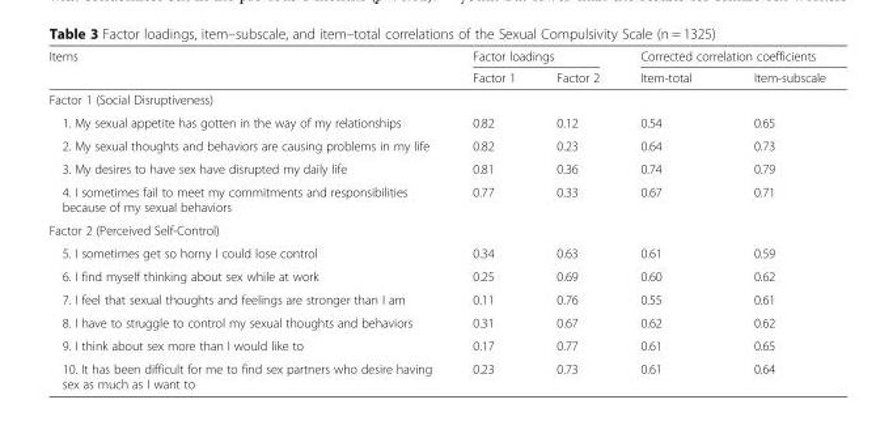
<table><thead><tr><td rowspan="2">Items</td><td colspan="2">Factor loadings</td><td colspan="2">Corrected correlation coefficients</td></tr><tr><td>Factor 1</td><td>Factor 2</td><td>Item-total</td><td>Item-subscale</td></tr></thead><tbody><tr><td colspan="5">Factor 1 (Social Disruptiveness)</td></tr><tr><td>1. My sexual appetite has gotten in the way of my relationships</td><td>0.82</td><td>0.12</td><td>0.54</td><td>0.65</td></tr><tr><td>2. My sexual thoughts and behaviors are causing problems in my life</td><td>0.82</td><td>0.23</td><td>0.64</td><td>0.73</td></tr><tr><td>3. My desires to have sex have disrupted my daily life</td><td>0.81</td><td>0.36</td><td>0.74</td><td>0.79</td></tr><tr><td>4. I sometimes fail to meet my commitments and responsibilities because of my sexual behaviors</td><td>0.77</td><td>0.33</td><td>0.67</td><td>0.71</td></tr><tr><td colspan="5">Factor 2 (Perceived Self-Control)</td></tr><tr><td>5. I sometimes get so horny I could lose control</td><td>0.34</td><td>0.63</td><td>0.61</td><td>0.59</td></tr><tr><td>6. I find myself thinking about sex while at work</td><td>0.25</td><td>0.69</td><td>0.60</td><td>0.62</td></tr><tr><td>7. I feel that sexual thoughts and feelings are stronger than I am</td><td>0.11</td><td>0.76</td><td>0.55</td><td>0.61</td></tr><tr><td>8. I have to struggle to control my sexual thoughts and behaviors</td><td>0.31</td><td>0.67</td><td>0.62</td><td>0.62</td></tr><tr><td>9. I think about sex more than I would like to</td><td>0.17</td><td>0.77</td><td>0.61</td><td>0.65</td></tr><tr><td>10. It has been difficult for me to find sex partners who desire having sex as much as I want to</td><td>0.23</td><td>0.73</td><td>0.61</td><td>0.64</td></tr></tbody></table>